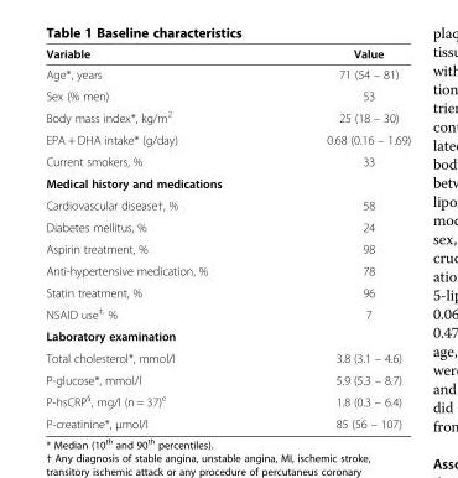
<table><thead><tr><td>Variable</td><td>Value</td></tr></thead><tbody><tr><td>Age*, years</td><td>71 (54 – 81)</td></tr><tr><td>Sex (% men)</td><td>53</td></tr><tr><td>Body mass index*, kg/m<sup>2</sup></td><td>25 (18 – 30)</td></tr><tr><td>EPA + DHA intake* (g/day)</td><td>0.68 (0.16 – 1.69)</td></tr><tr><td>Current smokers, %</td><td>33</td></tr><tr><td colspan="2">Medical history and medications</td></tr><tr><td>Cardiovascular disease†, %</td><td>58</td></tr><tr><td>Diabetes mellitus, %</td><td>24</td></tr><tr><td>Aspirin treatment, %</td><td>98</td></tr><tr><td>Anti-hypertensive medication, %</td><td>78</td></tr><tr><td>Statin treatment, %</td><td>96</td></tr><tr><td>NSAID use<sup>‡,</sup> %</td><td>7</td></tr><tr><td colspan="2">Laboratory examination</td></tr><tr><td>Total cholesterol*, mmol/l</td><td>3.8 (3.1 – 4.6)</td></tr><tr><td>P-glucose*, mmol/l</td><td>5.9 (5.3 – 8.7)</td></tr><tr><td>P-hsCRP<sup>§</sup>, mg/l (n = 37)<sup>e</sup></td><td>1.8 (0.3 – 6.4)</td></tr><tr><td>P-creatinine*, μmol/l</td><td>85 (56 – 107)</td></tr></tbody></table>